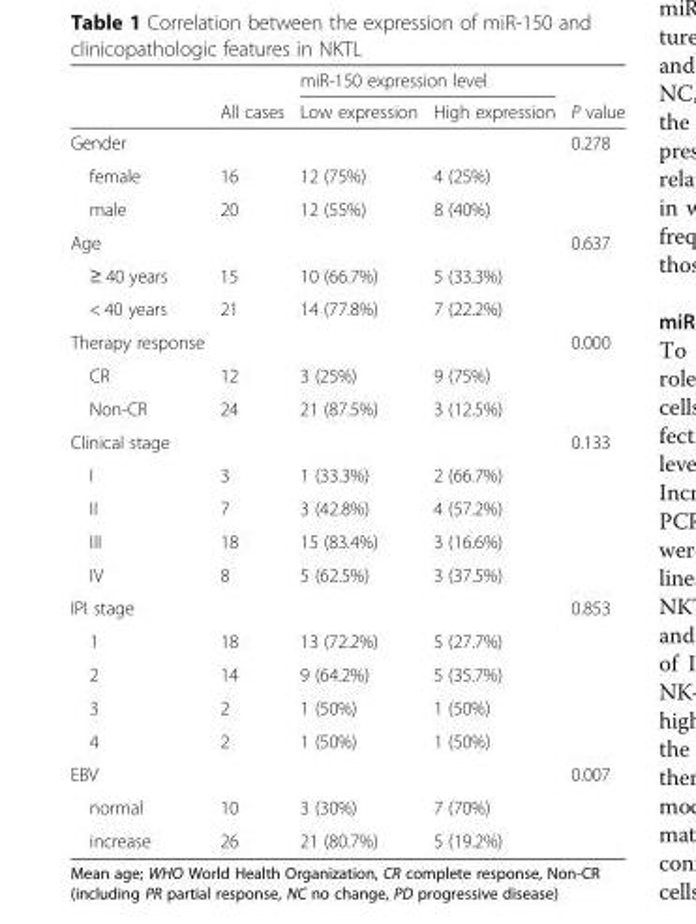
<table><thead><tr><td rowspan="2"></td><td rowspan="2">All cases</td><td colspan="2">miR-150 expression level</td><td rowspan="2">P value</td></tr><tr><td>Low expression</td><td>High expression</td></tr></thead><tbody><tr><td>Gender</td><td></td><td></td><td></td><td>0.278</td></tr><tr><td>female</td><td>16</td><td>12 (75%)</td><td>4 (25%)</td><td></td></tr><tr><td>male</td><td>20</td><td>12 (55%)</td><td>8 (40%)</td><td></td></tr><tr><td>Age</td><td></td><td></td><td></td><td>0.637</td></tr><tr><td>≥ 40 years</td><td>15</td><td>10 (66.7%)</td><td>5 (33.3%)</td><td></td></tr><tr><td>&lt; 40 years</td><td>21</td><td>14 (77.8%)</td><td>7 (22.2%)</td><td></td></tr><tr><td>Therapy response</td><td></td><td></td><td></td><td>0.000</td></tr><tr><td>CR</td><td>12</td><td>3 (25%)</td><td>9 (75%)</td><td></td></tr><tr><td>Non-CR</td><td>24</td><td>21 (87.5%)</td><td>3 (12.5%)</td><td></td></tr><tr><td>Clinical stage</td><td></td><td></td><td></td><td>0.133</td></tr><tr><td>I</td><td>3</td><td>1 (33.3%)</td><td>2 (66.7%)</td><td></td></tr><tr><td>II</td><td>7</td><td>3 (42.8%)</td><td>4 (57.2%)</td><td></td></tr><tr><td>III</td><td>18</td><td>15 (83.4%)</td><td>3 (16.6%)</td><td></td></tr><tr><td>IV</td><td>8</td><td>5 (62.5%)</td><td>3 (37.5%)</td><td></td></tr><tr><td>IPI stage</td><td></td><td></td><td></td><td>0.853</td></tr><tr><td>1</td><td>18</td><td>13 (72.2%)</td><td>5 (27.7%)</td><td></td></tr><tr><td>2</td><td>14</td><td>9 (64.2%)</td><td>5 (35.7%)</td><td></td></tr><tr><td>3</td><td>2</td><td>1 (50%)</td><td>1 (50%)</td><td></td></tr><tr><td>4</td><td>2</td><td>1 (50%)</td><td>1 (50%)</td><td></td></tr><tr><td>EBV</td><td></td><td></td><td></td><td>0.007</td></tr><tr><td>normal</td><td>10</td><td>3 (30%)</td><td>7 (70%)</td><td></td></tr><tr><td>increase</td><td>26</td><td>21 (80.7%)</td><td>5 (19.2%)</td><td></td></tr></tbody></table>